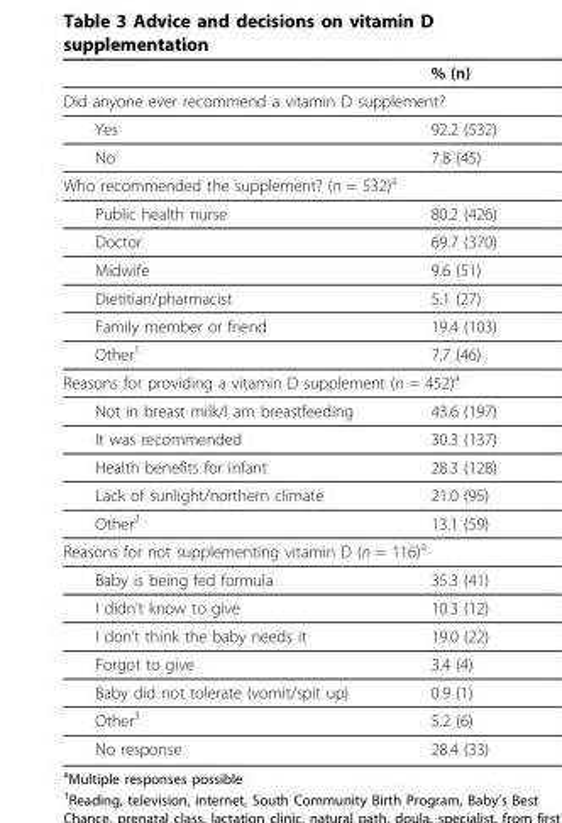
<table><thead><tr><td></td><td>% (n)</td></tr></thead><tbody><tr><td colspan="2">Did anyone ever recommend a vitamin D supplement?</td></tr><tr><td>Yes</td><td>92.2 (532)</td></tr><tr><td>No</td><td>7.8 (45)</td></tr><tr><td colspan="2">Who recommended the supplement? (n = 532)<sup>a</sup></td></tr><tr><td>Public health nurse</td><td>80.2 (426)</td></tr><tr><td>Doctor</td><td>69.7 (370)</td></tr><tr><td>Midwife</td><td>9.6 (51)</td></tr><tr><td>Dietitian/pharmacist</td><td>5.1 (27)</td></tr><tr><td>Family member or friend</td><td>19.4 (103)</td></tr><tr><td>Other<sup>1</sup></td><td>7.7 (46)</td></tr><tr><td colspan="2">Reasons for providing a vitamin D supplement (n = 452)<sup>a</sup></td></tr><tr><td>Not in breast milk/I am breastfeeding</td><td>43.6 (197)</td></tr><tr><td>It was recommended</td><td>30.3 (137)</td></tr><tr><td>Health benefits for infant</td><td>28.3 (128)</td></tr><tr><td>Lack of sunlight/northern climate</td><td>21.0 (95)</td></tr><tr><td>Other<sup>2</sup></td><td>13.1 (59)</td></tr><tr><td colspan="2">Reasons for not supplementing vitamin D (n = 116)<sup>a</sup></td></tr><tr><td>Baby is being fed formula</td><td>35.3 (41)</td></tr><tr><td>I didn’t know to give</td><td>10.3 (12)</td></tr><tr><td>I don’t think the baby needs it</td><td>19.0 (22)</td></tr><tr><td>Forgot to give</td><td>3.4 (4)</td></tr><tr><td>Baby did not tolerate (vomit/spit up)</td><td>0.9 (1)</td></tr><tr><td>Other<sup>3</sup></td><td>5.2 (6)</td></tr><tr><td>No response</td><td>28.4 (33)</td></tr></tbody></table>